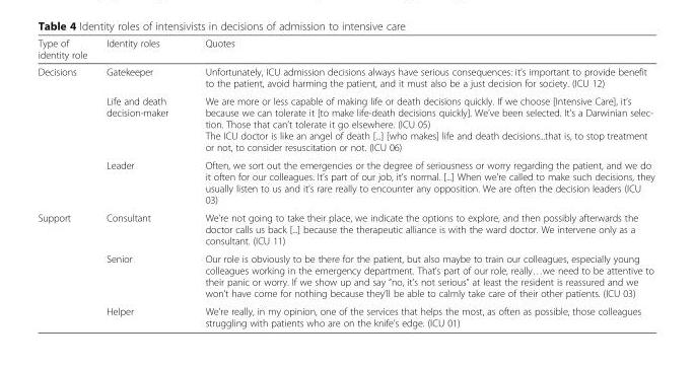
<table><thead><tr><td>Type of identity role</td><td>Identity roles</td><td>Quotes</td></tr></thead><tbody><tr><td rowspan="3">Decisions</td><td>Gatekeeper</td><td>Unfortunately, ICU admission decisions always have serious consequences: it’s important to provide benefit to the patient, avoid harming the patient, and it must also be a just decision for society. (ICU 12)</td></tr><tr><td>Life and death decision-maker</td><td>We are more or less capable of making life or death decisions quickly. If we choose [Intensive Care], it’s because we can tolerate it [to make life-death decisions quickly]. We’ve been selected. It’s a Darwinian selec- tion. Those that can’t tolerate it go elsewhere. (ICU 05) The ICU doctor is like an angel of death [...] [who makes] life and death decisions...that is, to stop treatment or not, to consider resuscitation or not. (ICU 06)</td></tr><tr><td>Leader</td><td>Often, we sort out the emergencies or the degree of seriousness or worry regarding the patient, and we do it often for our colleagues. It’s part of our job, it’s normal. [...] When we’re called to make such decisions, they usually listen to us and it’s rare really to encounter any opposition. We are often the decision leaders (ICU 03)</td></tr><tr><td rowspan="3">Support</td><td>Consultant</td><td>We’re not going to take their place, we indicate the options to explore, and then possibly afterwards the doctor calls us back [...] because the therapeutic alliance is with the ward doctor. We intervene only as a consultant. (ICU 11)</td></tr><tr><td>Senior</td><td>Our role is obviously to be there for the patient, but also maybe to train our colleagues, especially young colleagues working in the emergency department. That’s part of our role, really…we need to be attentive to their panic or worry. If we show up and say “no, it’s not serious” at least the resident is reassured and we won’t have come for nothing because they’ll be able to calmly take care of their other patients. (ICU 03)</td></tr><tr><td>Helper</td><td>We’re really, in my opinion, one of the services that helps the most, as often as possible, those colleagues struggling with patients who are on the knife’s edge. (ICU 01)</td></tr></tbody></table>